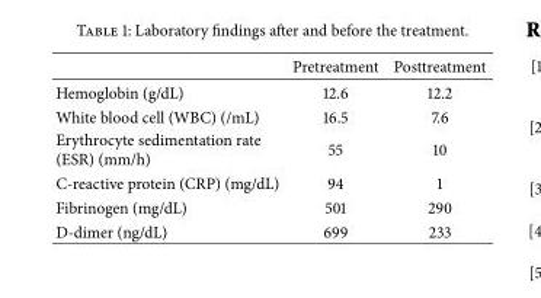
<table><thead><tr><td></td><td>Pretreatment</td><td>Posttreatment</td></tr></thead><tbody><tr><td>Hemoglobin (g/dL)</td><td>12.6</td><td>12.2</td></tr><tr><td>White blood cell (WBC) (/mL)</td><td>16.5</td><td>7.6</td></tr><tr><td>Erythrocyte sedimentation rate (ESR) (mm/h)</td><td>55</td><td>10</td></tr><tr><td>C-reactive protein (CRP) (mg/dL)</td><td>94</td><td>1</td></tr><tr><td>Fibrinogen (mg/dL)</td><td>501</td><td>290</td></tr><tr><td>D-dimer (ng/dL)</td><td>699</td><td>233</td></tr></tbody></table>